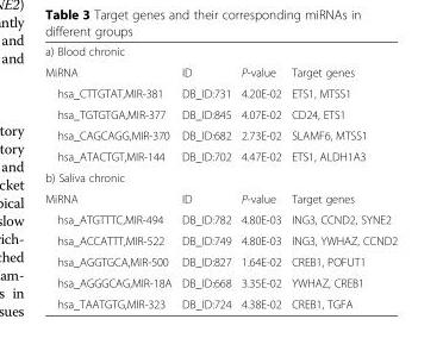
<table><tbody><tr><td colspan="4">a) Blood chronic</td></tr><tr><td>MiRNA</td><td>ID</td><td>P-value</td><td>Target genes</td></tr><tr><td>hsa_CTTGTAT,MIR-381</td><td>DB_ID:731</td><td>4.20E-02</td><td>ETS1, MTSS1</td></tr><tr><td>hsa_TGTGTGA,MIR-377</td><td>DB_ID:845</td><td>4.07E-02</td><td>CD24, ETS1</td></tr><tr><td>hsa_CAGCAGG,MIR-370</td><td>DB_ID:682</td><td>2.73E-02</td><td>SLAMF6, MTSS1</td></tr><tr><td>hsa_ATACTGT,MIR-144</td><td>DB_ID:702</td><td>4.47E-02</td><td>ETS1, ALDH1A3</td></tr><tr><td colspan="4">b) Saliva chronic</td></tr><tr><td>MiRNA</td><td>ID</td><td>P-value</td><td>Target genes</td></tr><tr><td>hsa_ATGTTTC,MIR-494</td><td>DB_ID:782</td><td>4.80E-03</td><td>ING3, CCND2, SYNE2</td></tr><tr><td>hsa_ACCATTT,MIR-522</td><td>DB_ID:749</td><td>4.80E-03</td><td>ING3, YWHAZ, CCND2</td></tr><tr><td>hsa_AGGTGCA,MIR-500</td><td>DB_ID:827</td><td>1.64E-02</td><td>CREB1, POFUT1</td></tr><tr><td>hsa_AGGGCAG,MIR-18A</td><td>DB_ID:668</td><td>3.35E-02</td><td>YWHAZ, CREB1</td></tr><tr><td>hsa_TAATGTG,MIR-323</td><td>DB_ID:724</td><td>4.38E-02</td><td>CREB1, TGFA</td></tr></tbody></table>